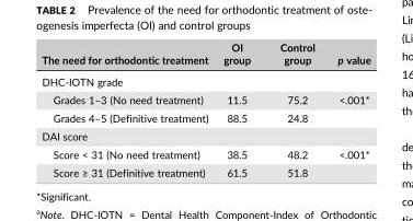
<table><thead><tr><td>The need for orthodontic treatment</td><td>OI group</td><td>Control group</td><td>p value</td></tr></thead><tbody><tr><td colspan="4">DHC‐IOTN grade</td></tr><tr><td>Grades 1–3 (No need treatment)</td><td>11.5</td><td>75.2</td><td>&lt;.001*</td></tr><tr><td>Grades 4–5 (Definitive treatment)</td><td>88.5</td><td>24.8</td><td></td></tr><tr><td colspan="4">DAI score</td></tr><tr><td>Score &lt; 31 (No need treatment)</td><td>38.5</td><td>48.2</td><td>&lt;.001*</td></tr><tr><td>Score ≥ 31 (Definitive treatment)</td><td>61.5</td><td>51.8</td><td></td></tr></tbody></table>